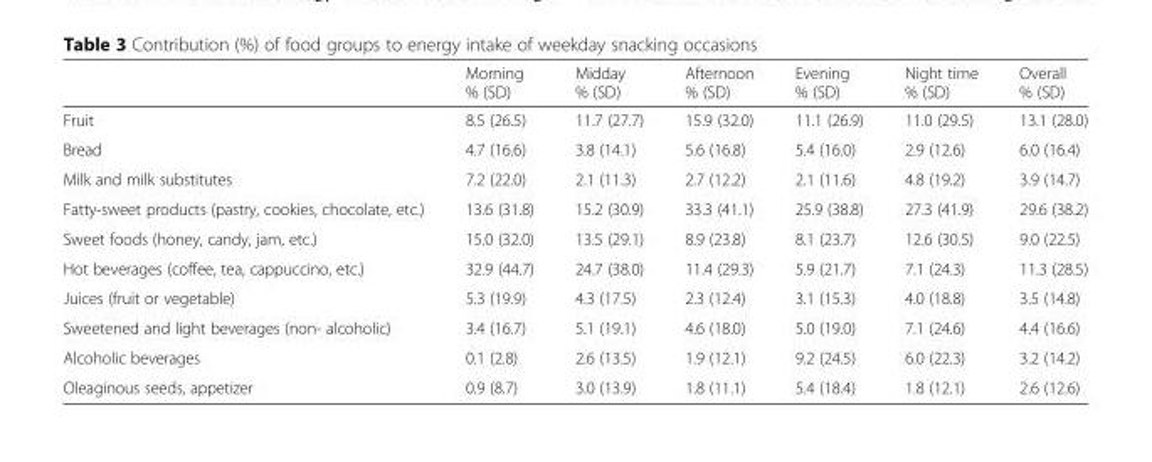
<table><thead><tr><td></td><td>Morning % (SD)</td><td>Midday % (SD)</td><td>Afternoon % (SD)</td><td>Evening % (SD)</td><td>Night time % (SD)</td><td>Overall % (SD)</td></tr></thead><tbody><tr><td>Fruit</td><td>8.5 (26.5)</td><td>11.7 (27.7)</td><td>15.9 (32.0)</td><td>11.1 (26.9)</td><td>11.0 (29.5)</td><td>13.1 (28.0)</td></tr><tr><td>Bread</td><td>4.7 (16.6)</td><td>3.8 (14.1)</td><td>5.6 (16.8)</td><td>5.4 (16.0)</td><td>2.9 (12.6)</td><td>6.0 (16.4)</td></tr><tr><td>Milk and milk substitutes</td><td>7.2 (22.0)</td><td>2.1 (11.3)</td><td>2.7 (12.2)</td><td>2.1 (11.6)</td><td>4.8 (19.2)</td><td>3.9 (14.7)</td></tr><tr><td>Fatty-sweet products (pastry, cookies, chocolate, etc.)</td><td>13.6 (31.8)</td><td>15.2 (30.9)</td><td>33.3 (41.1)</td><td>25.9 (38.8)</td><td>27.3 (41.9)</td><td>29.6 (38.2)</td></tr><tr><td>Sweet foods (honey, candy, jam, etc.)</td><td>15.0 (32.0)</td><td>13.5 (29.1)</td><td>8.9 (23.8)</td><td>8.1 (23.7)</td><td>12.6 (30.5)</td><td>9.0 (22.5)</td></tr><tr><td>Hot beverages (coffee, tea, cappuccino, etc.)</td><td>32.9 (44.7)</td><td>24.7 (38.0)</td><td>11.4 (29.3)</td><td>5.9 (21.7)</td><td>7.1 (24.3)</td><td>11.3 (28.5)</td></tr><tr><td>Juices (fruit or vegetable)</td><td>5.3 (19.9)</td><td>4.3 (17.5)</td><td>2.3 (12.4)</td><td>3.1 (15.3)</td><td>4.0 (18.8)</td><td>3.5 (14.8)</td></tr><tr><td>Sweetened and light beverages (non- alcoholic)</td><td>3.4 (16.7)</td><td>5.1 (19.1)</td><td>4.6 (18.0)</td><td>5.0 (19.0)</td><td>7.1 (24.6)</td><td>4.4 (16.6)</td></tr><tr><td>Alcoholic beverages</td><td>0.1 (2.8)</td><td>2.6 (13.5)</td><td>1.9 (12.1)</td><td>9.2 (24.5)</td><td>6.0 (22.3)</td><td>3.2 (14.2)</td></tr><tr><td>Oleaginous seeds, appetizer</td><td>0.9 (8.7)</td><td>3.0 (13.9)</td><td>1.8 (11.1)</td><td>5.4 (18.4)</td><td>1.8 (12.1)</td><td>2.6 (12.6)</td></tr></tbody></table>